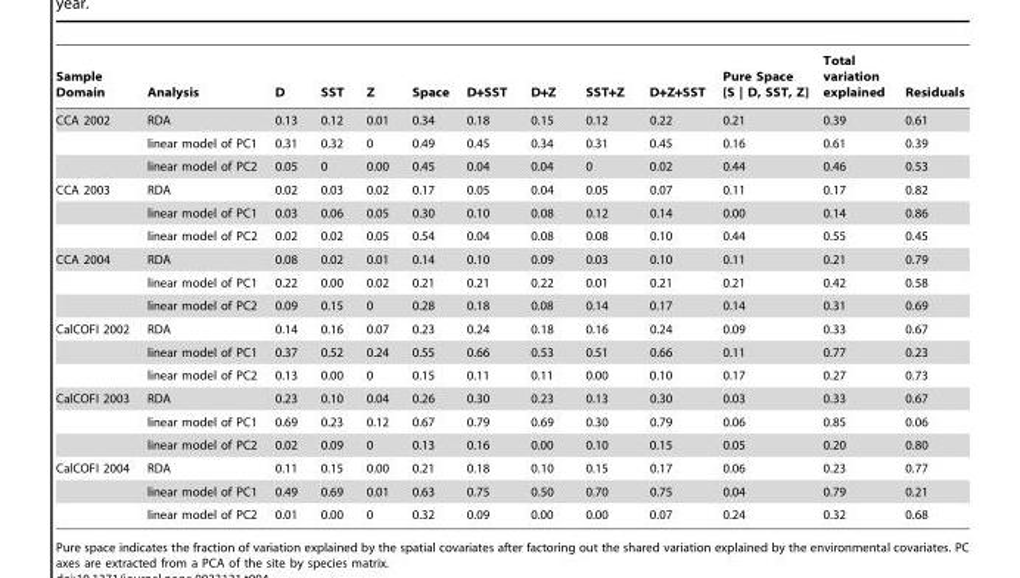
<table><thead><tr><td>Sample Domain</td><td>Analysis</td><td>D</td><td>SST</td><td>Z</td><td>Space</td><td>D+SST</td><td>D+Z</td><td>SST+Z</td><td>D+Z+SST</td><td>Pure Space [S | D, SST, Z]</td><td>Total variation explained</td><td>Residuals</td></tr></thead><tbody><tr><td rowspan="3">CCA 2002</td><td>RDA</td><td>0.13</td><td>0.12</td><td>0.01</td><td>0.34</td><td>0.18</td><td>0.15</td><td>0.12</td><td>0.22</td><td>0.21</td><td>0.39</td><td>0.61</td></tr><tr><td>linear model of PC1</td><td>0.31</td><td>0.32</td><td>0</td><td>0.49</td><td>0.45</td><td>0.34</td><td>0.31</td><td>0.45</td><td>0.16</td><td>0.61</td><td>0.39</td></tr><tr><td>linear model of PC2</td><td>0.05</td><td>0</td><td>0.00</td><td>0.45</td><td>0.04</td><td>0.04</td><td>0</td><td>0.02</td><td>0.44</td><td>0.46</td><td>0.53</td></tr><tr><td rowspan="3">CCA 2003</td><td>RDA</td><td>0.02</td><td>0.03</td><td>0.02</td><td>0.17</td><td>0.05</td><td>0.04</td><td>0.05</td><td>0.07</td><td>0.11</td><td>0.17</td><td>0.82</td></tr><tr><td>linear model of PC1</td><td>0.03</td><td>0.06</td><td>0.05</td><td>0.30</td><td>0.10</td><td>0.08</td><td>0.12</td><td>0.14</td><td>0.00</td><td>0.14</td><td>0.86</td></tr><tr><td>linear model of PC2</td><td>0.02</td><td>0.02</td><td>0.05</td><td>0.54</td><td>0.04</td><td>0.08</td><td>0.08</td><td>0.10</td><td>0.44</td><td>0.55</td><td>0.45</td></tr><tr><td rowspan="3">CCA 2004</td><td>RDA</td><td>0.08</td><td>0.02</td><td>0.01</td><td>0.14</td><td>0.10</td><td>0.09</td><td>0.03</td><td>0.10</td><td>0.11</td><td>0.21</td><td>0.79</td></tr><tr><td>linear model of PC1</td><td>0.22</td><td>0.00</td><td>0.02</td><td>0.21</td><td>0.21</td><td>0.22</td><td>0.01</td><td>0.21</td><td>0.21</td><td>0.42</td><td>0.58</td></tr><tr><td>linear model of PC2</td><td>0.09</td><td>0.15</td><td>0</td><td>0.28</td><td>0.18</td><td>0.08</td><td>0.14</td><td>0.17</td><td>0.14</td><td>0.31</td><td>0.69</td></tr><tr><td rowspan="3">CalCOFI 2002</td><td>RDA</td><td>0.14</td><td>0.16</td><td>0.07</td><td>0.23</td><td>0.24</td><td>0.18</td><td>0.16</td><td>0.24</td><td>0.09</td><td>0.33</td><td>0.67</td></tr><tr><td>linear model of PC1</td><td>0.37</td><td>0.52</td><td>0.24</td><td>0.55</td><td>0.66</td><td>0.53</td><td>0.51</td><td>0.66</td><td>0.11</td><td>0.77</td><td>0.23</td></tr><tr><td>linear model of PC2</td><td>0.13</td><td>0.00</td><td>0</td><td>0.15</td><td>0.11</td><td>0.11</td><td>0.00</td><td>0.10</td><td>0.17</td><td>0.27</td><td>0.73</td></tr><tr><td rowspan="3">CalCOFI 2003</td><td>RDA</td><td>0.23</td><td>0.10</td><td>0.04</td><td>0.26</td><td>0.30</td><td>0.23</td><td>0.13</td><td>0.30</td><td>0.03</td><td>0.33</td><td>0.67</td></tr><tr><td>linear model of PC1</td><td>0.69</td><td>0.23</td><td>0.12</td><td>0.67</td><td>0.79</td><td>0.69</td><td>0.30</td><td>0.79</td><td>0.06</td><td>0.85</td><td>0.06</td></tr><tr><td>linear model of PC2</td><td>0.02</td><td>0.09</td><td>0</td><td>0.13</td><td>0.16</td><td>0.00</td><td>0.10</td><td>0.15</td><td>0.05</td><td>0.20</td><td>0.80</td></tr><tr><td rowspan="3">CalCOFI 2004</td><td>RDA</td><td>0.11</td><td>0.15</td><td>0.00</td><td>0.21</td><td>0.18</td><td>0.10</td><td>0.15</td><td>0.17</td><td>0.06</td><td>0.23</td><td>0.77</td></tr><tr><td>linear model of PC1</td><td>0.49</td><td>0.69</td><td>0.01</td><td>0.63</td><td>0.75</td><td>0.50</td><td>0.70</td><td>0.75</td><td>0.04</td><td>0.79</td><td>0.21</td></tr><tr><td>linear model of PC2</td><td>0.01</td><td>0.00</td><td>0</td><td>0.32</td><td>0.09</td><td>0.00</td><td>0.00</td><td>0.07</td><td>0.24</td><td>0.32</td><td>0.68</td></tr></tbody></table>